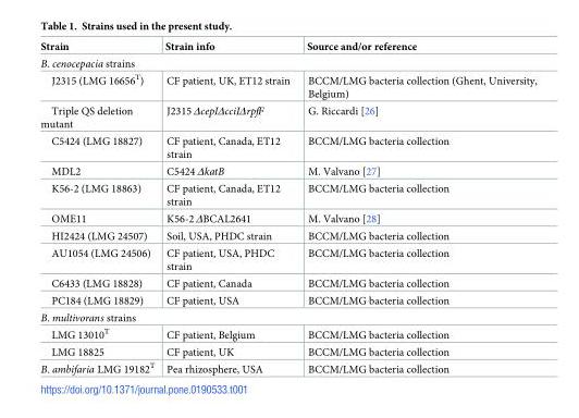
<table><thead><tr><td>Strain</td><td>Strain info</td><td>Source and/or reference</td></tr></thead><tbody><tr><td colspan="3">B. cenocepacia strains</td></tr><tr><td>J2315 (LMG 16656<sup>T</sup>)</td><td>CF patient, UK, ET12 strain</td><td>BCCM/LMG bacteria collection (Ghent, University, Belgium)</td></tr><tr><td>Triple QS deletion mutant</td><td>J2315 ΔcepIΔcciIΔrpfF</td><td>G. Riccardi [26]</td></tr><tr><td>C5424 (LMG 18827)</td><td>CF patient, Canada, ET12 strain</td><td>BCCM/LMG bacteria collection</td></tr><tr><td>MDL2</td><td>C5424 ΔkatB</td><td>M. Valvano [27]</td></tr><tr><td>K56-2 (LMG 18863)</td><td>CF patient, Canada, ET12 strain</td><td>BCCM/LMG bacteria collection</td></tr><tr><td>OME11</td><td>K56-2 ΔBCAL2641</td><td>M. Valvano [28]</td></tr><tr><td>HI2424 (LMG 24507)</td><td>Soil, USA, PHDC strain</td><td>BCCM/LMG bacteria collection</td></tr><tr><td>AU1054 (LMG 24506)</td><td>CF patient, USA, PHDC strain</td><td>BCCM/LMG bacteria collection</td></tr><tr><td>C6433 (LMG 18828)</td><td>CF patient, Canada</td><td>BCCM/LMG bacteria collection</td></tr><tr><td>PC184 (LMG 18829)</td><td>CF patient, USA</td><td>BCCM/LMG bacteria collection</td></tr><tr><td colspan="3">B. multivorans strains</td></tr><tr><td>LMG 13010<sup>T</sup></td><td>CF patient, Belgium</td><td>BCCM/LMG bacteria collection</td></tr><tr><td>LMG 18825</td><td>CF patient, UK</td><td>BCCM/LMG bacteria collection</td></tr><tr><td>B. ambifaria LMG 19182<sup>T</sup></td><td>Pea rhizosphere, USA</td><td>BCCM/LMG bacteria collection</td></tr></tbody></table>